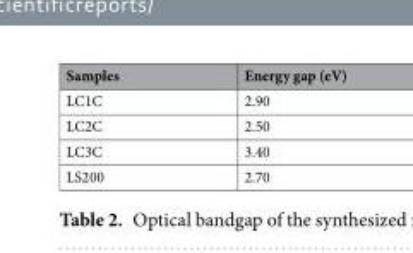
<table><thead><tr><td>Samples</td><td>Energy gap (eV)</td></tr></thead><tbody><tr><td>LC1C</td><td>2.90</td></tr><tr><td>LC2C</td><td>2.50</td></tr><tr><td>LC3C</td><td>3.40</td></tr><tr><td>LS200</td><td>2.70</td></tr></tbody></table>